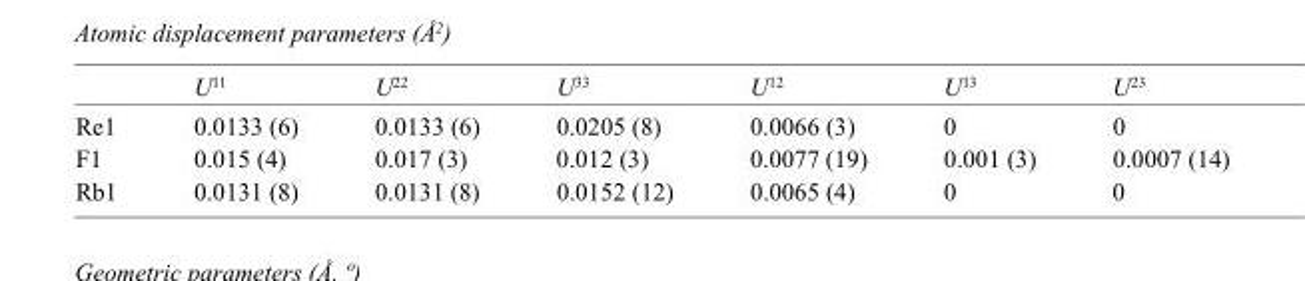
<table><thead><tr><td></td><td>U<sup>11</sup></td><td>U<sup>22</sup></td><td>U<sup>33</sup></td><td>U<sup>12</sup></td><td>U<sup>13</sup></td><td>U<sup>23</sup></td></tr></thead><tbody><tr><td>Re1</td><td>0.0133 (6)</td><td>0.0133 (6)</td><td>0.0205 (8)</td><td>0.0066 (3)</td><td>0</td><td>0</td></tr><tr><td>F1</td><td>0.015 (4)</td><td>0.017 (3)</td><td>0.012 (3)</td><td>0.0077 (19)</td><td>0.001 (3)</td><td>0.0007 (14)</td></tr><tr><td>Rb1</td><td>0.0131 (8)</td><td>0.0131 (8)</td><td>0.0152 (12)</td><td>0.0065 (4)</td><td>0</td><td>0</td></tr></tbody></table>